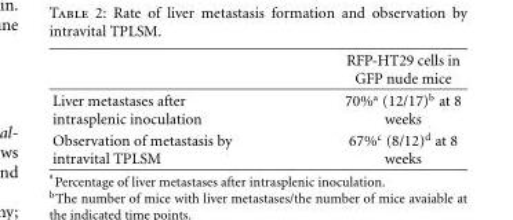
<table><thead><tr><td></td><td>RFP-HT29 cells in GFP nude mice</td></tr></thead><tbody><tr><td>Liver metastases after intrasplenic inoculation</td><td>70%<sup>a</sup> (12/17)<sup>b</sup> at 8 weeks</td></tr><tr><td>Observation of metastasis by intravital TPLSM</td><td>67%<sup>c</sup> (8/12)<sup>d</sup> at 8 weeks</td></tr></tbody></table>